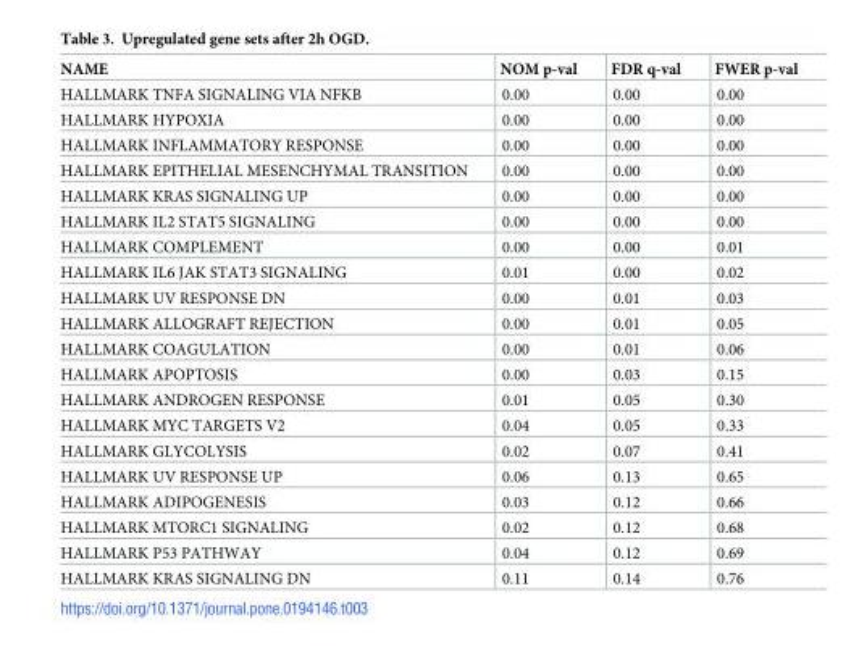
<table><thead><tr><td>NAME</td><td>NOM p-val</td><td>FDR q-val</td><td>FWER p-val</td></tr></thead><tbody><tr><td>HALLMARK TNFA SIGNALING VIA NFKB</td><td>0.00</td><td>0.00</td><td>0.00</td></tr><tr><td>HALLMARK HYPOXIA</td><td>0.00</td><td>0.00</td><td>0.00</td></tr><tr><td>HALLMARK INFLAMMATORY RESPONSE</td><td>0.00</td><td>0.00</td><td>0.00</td></tr><tr><td>HALLMARK EPITHELIAL MESENCHYMAL TRANSITION</td><td>0.00</td><td>0.00</td><td>0.00</td></tr><tr><td>HALLMARK KRAS SIGNALING UP</td><td>0.00</td><td>0.00</td><td>0.00</td></tr><tr><td>HALLMARK IL2 STAT5 SIGNALING</td><td>0.00</td><td>0.00</td><td>0.00</td></tr><tr><td>HALLMARK COMPLEMENT</td><td>0.00</td><td>0.00</td><td>0.01</td></tr><tr><td>HALLMARK IL6 JAK STAT3 SIGNALING</td><td>0.01</td><td>0.00</td><td>0.02</td></tr><tr><td>HALLMARK UV RESPONSE DN</td><td>0.00</td><td>0.01</td><td>0.03</td></tr><tr><td>HALLMARK ALLOGRAFT REJECTION</td><td>0.00</td><td>0.01</td><td>0.05</td></tr><tr><td>HALLMARK COAGULATION</td><td>0.00</td><td>0.01</td><td>0.06</td></tr><tr><td>HALLMARK APOPTOSIS</td><td>0.00</td><td>0.03</td><td>0.15</td></tr><tr><td>HALLMARK ANDROGEN RESPONSE</td><td>0.01</td><td>0.05</td><td>0.30</td></tr><tr><td>HALLMARK MYC TARGETS V2</td><td>0.04</td><td>0.05</td><td>0.33</td></tr><tr><td>HALLMARK GLYCOLYSIS</td><td>0.02</td><td>0.07</td><td>0.41</td></tr><tr><td>HALLMARK UV RESPONSE UP</td><td>0.06</td><td>0.13</td><td>0.65</td></tr><tr><td>HALLMARK ADIPOGENESIS</td><td>0.03</td><td>0.12</td><td>0.66</td></tr><tr><td>HALLMARK MTORC1 SIGNALING</td><td>0.02</td><td>0.12</td><td>0.68</td></tr><tr><td>HALLMARK P53 PATHWAY</td><td>0.04</td><td>0.12</td><td>0.69</td></tr><tr><td>HALLMARK KRAS SIGNALING DN</td><td>0.11</td><td>0.14</td><td>0.76</td></tr></tbody></table>